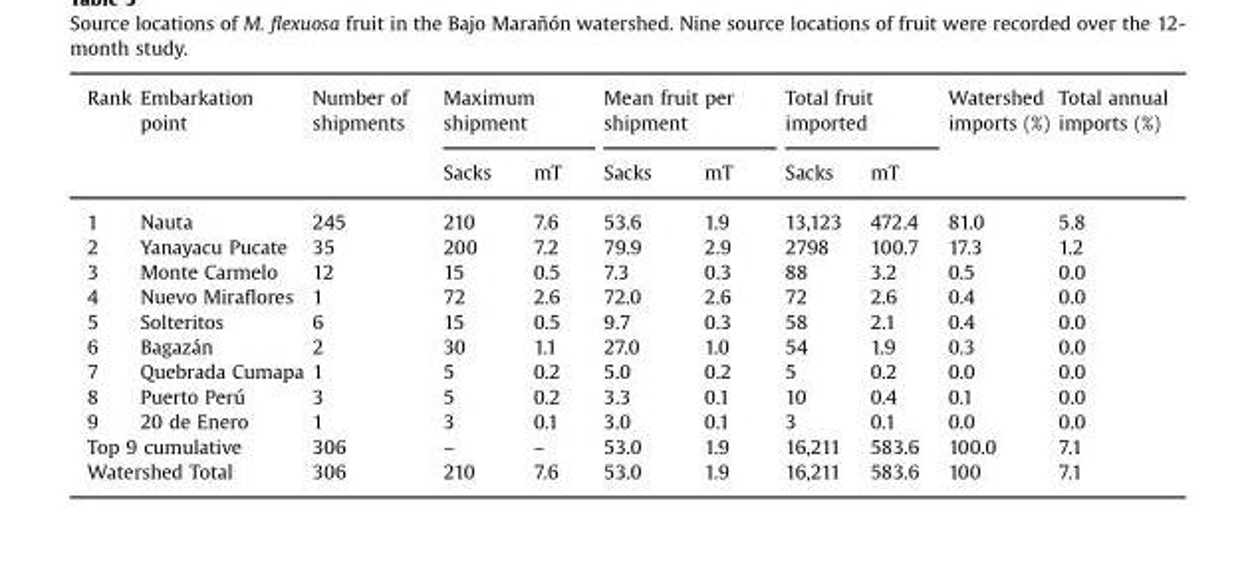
<table><thead><tr><td rowspan="2">Rank</td><td rowspan="2">Embarkation point</td><td rowspan="2">Number of shipments</td><td colspan="2">Maximum shipment</td><td colspan="2">Mean fruit per shipment</td><td colspan="2">Total fruit imported</td><td rowspan="2">Watershed imports (%)</td><td rowspan="2">Total annual imports (%)</td></tr><tr><td>Sacks</td><td>mT</td><td>Sacks</td><td>mT</td><td>Sacks</td><td>mT</td></tr></thead><tbody><tr><td>1</td><td>Nauta</td><td>245</td><td>210</td><td>7.6</td><td>53.6</td><td>1.9</td><td>13,123</td><td>472.4</td><td>81.0</td><td>5.8</td></tr><tr><td>2</td><td>Yanayacu Pucate</td><td>35</td><td>200</td><td>7.2</td><td>79.9</td><td>2.9</td><td>2798</td><td>100.7</td><td>17.3</td><td>1.2</td></tr><tr><td>3</td><td>Monte Carmelo</td><td>12</td><td>15</td><td>0.5</td><td>7.3</td><td>0.3</td><td>88</td><td>3.2</td><td>0.5</td><td>0.0</td></tr><tr><td>4</td><td>Nuevo Miraflores</td><td>1</td><td>72</td><td>2.6</td><td>72.0</td><td>2.6</td><td>72</td><td>2.6</td><td>0.4</td><td>0.0</td></tr><tr><td>5</td><td>Solteritos</td><td>6</td><td>15</td><td>0.5</td><td>9.7</td><td>0.3</td><td>58</td><td>2.1</td><td>0.4</td><td>0.0</td></tr><tr><td>6</td><td>Bagazán</td><td>2</td><td>30</td><td>1.1</td><td>27.0</td><td>1.0</td><td>54</td><td>1.9</td><td>0.3</td><td>0.0</td></tr><tr><td>7</td><td>Quebrada Cumapa</td><td>1</td><td>5</td><td>0.2</td><td>5.0</td><td>0.2</td><td>5</td><td>0.2</td><td>0.0</td><td>0.0</td></tr><tr><td>8</td><td>Puerto Perú</td><td>3</td><td>5</td><td>0.2</td><td>3.3</td><td>0.1</td><td>10</td><td>0.4</td><td>0.1</td><td>0.0</td></tr><tr><td>9</td><td>20 de Enero</td><td>1</td><td>3</td><td>0.1</td><td>3.0</td><td>0.1</td><td>3</td><td>0.1</td><td>0.0</td><td>0.0</td></tr><tr><td colspan="2">Top 9 cumulative</td><td>306</td><td>–</td><td>–</td><td>53.0</td><td>1.9</td><td>16,211</td><td>583.6</td><td>100.0</td><td>7.1</td></tr><tr><td colspan="2">Watershed Total</td><td>306</td><td>210</td><td>7.6</td><td>53.0</td><td>1.9</td><td>16,211</td><td>583.6</td><td>100</td><td>7.1</td></tr></tbody></table>